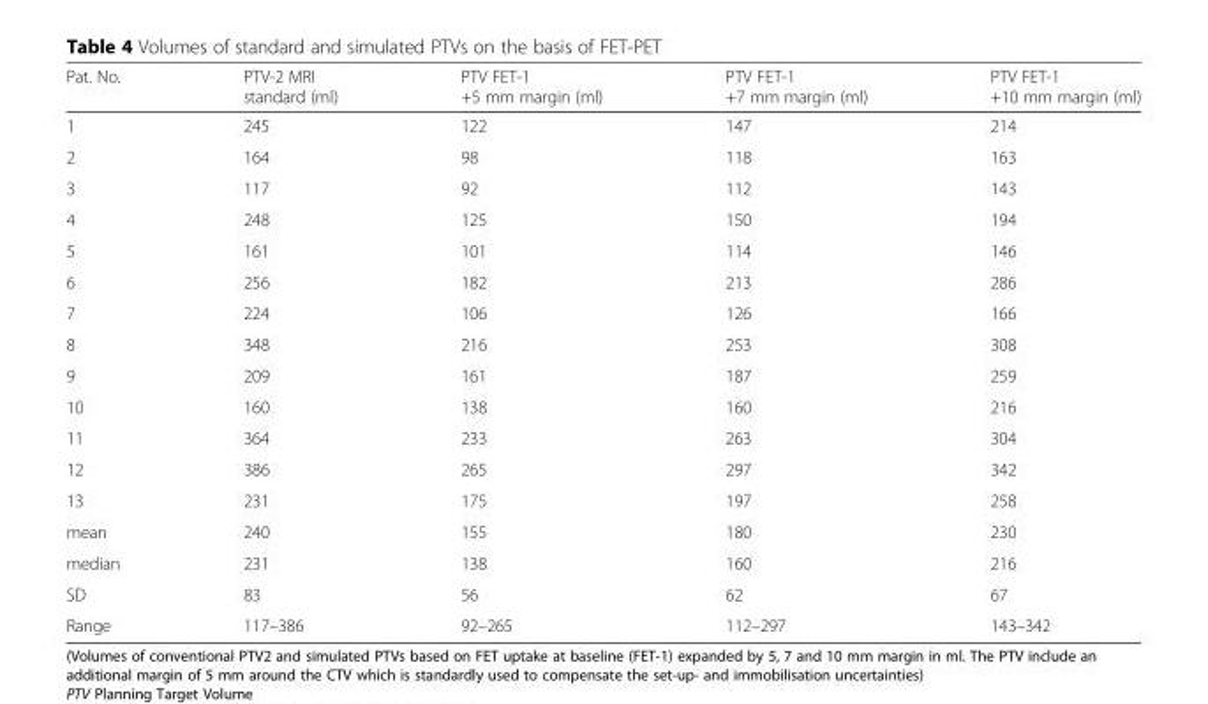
<table><thead><tr><td>Pat. No.</td><td>PTV-2 MRI standard (ml)</td><td>PTV FET-1 +5 mm margin (ml)</td><td>PTV FET-1 +7 mm margin (ml)</td><td>PTV FET-1 +10 mm margin (ml)</td></tr></thead><tbody><tr><td>1</td><td>245</td><td>122</td><td>147</td><td>214</td></tr><tr><td>2</td><td>164</td><td>98</td><td>118</td><td>163</td></tr><tr><td>3</td><td>117</td><td>92</td><td>112</td><td>143</td></tr><tr><td>4</td><td>248</td><td>125</td><td>150</td><td>194</td></tr><tr><td>5</td><td>161</td><td>101</td><td>114</td><td>146</td></tr><tr><td>6</td><td>256</td><td>182</td><td>213</td><td>286</td></tr><tr><td>7</td><td>224</td><td>106</td><td>126</td><td>166</td></tr><tr><td>8</td><td>348</td><td>216</td><td>253</td><td>308</td></tr><tr><td>9</td><td>209</td><td>161</td><td>187</td><td>259</td></tr><tr><td>10</td><td>160</td><td>138</td><td>160</td><td>216</td></tr><tr><td>11</td><td>364</td><td>233</td><td>263</td><td>304</td></tr><tr><td>12</td><td>386</td><td>265</td><td>297</td><td>342</td></tr><tr><td>13</td><td>231</td><td>175</td><td>197</td><td>258</td></tr><tr><td>mean</td><td>240</td><td>155</td><td>180</td><td>230</td></tr><tr><td>median</td><td>231</td><td>138</td><td>160</td><td>216</td></tr><tr><td>SD</td><td>83</td><td>56</td><td>62</td><td>67</td></tr><tr><td>Range</td><td>117–386</td><td>92–265</td><td>112–297</td><td>143–342</td></tr></tbody></table>